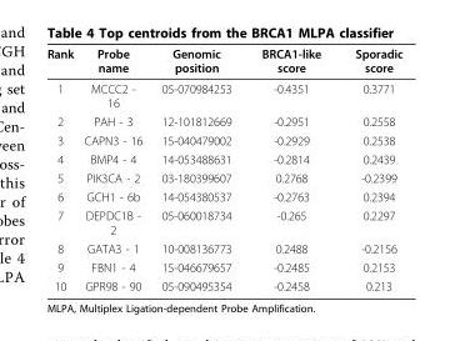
<table><thead><tr><td>Rank</td><td>Probe name</td><td>Genomic position</td><td>BRCA1-like score</td><td>Sporadic score</td></tr></thead><tbody><tr><td>1</td><td>MCCC2 - 16</td><td>05-070984253</td><td>-0.4351</td><td>0.3771</td></tr><tr><td>2</td><td>PAH - 3</td><td>12-101812669</td><td>-0.2951</td><td>0.2558</td></tr><tr><td>3</td><td>CAPN3 - 16</td><td>15-040479002</td><td>-0.2929</td><td>0.2538</td></tr><tr><td>4</td><td>BMP4 - 4</td><td>14-053488631</td><td>-0.2814</td><td>0.2439</td></tr><tr><td>5</td><td>PIK3CA - 2</td><td>03-180399607</td><td>0.2768</td><td>-0.2399</td></tr><tr><td>6</td><td>GCH1 - 6b</td><td>14-054380537</td><td>-0.2763</td><td>0.2394</td></tr><tr><td>7</td><td>DEPDC1B - 2</td><td>05-060018734</td><td>-0.265</td><td>0.2297</td></tr><tr><td>8</td><td>GATA3 - 1</td><td>10-008136773</td><td>0.2488</td><td>-0.2156</td></tr><tr><td>9</td><td>FBN1 - 4</td><td>15-046679657</td><td>-0.2485</td><td>0.2153</td></tr><tr><td>10</td><td>GPR98 - 90</td><td>05-090495354</td><td>-0.2458</td><td>0.213</td></tr></tbody></table>